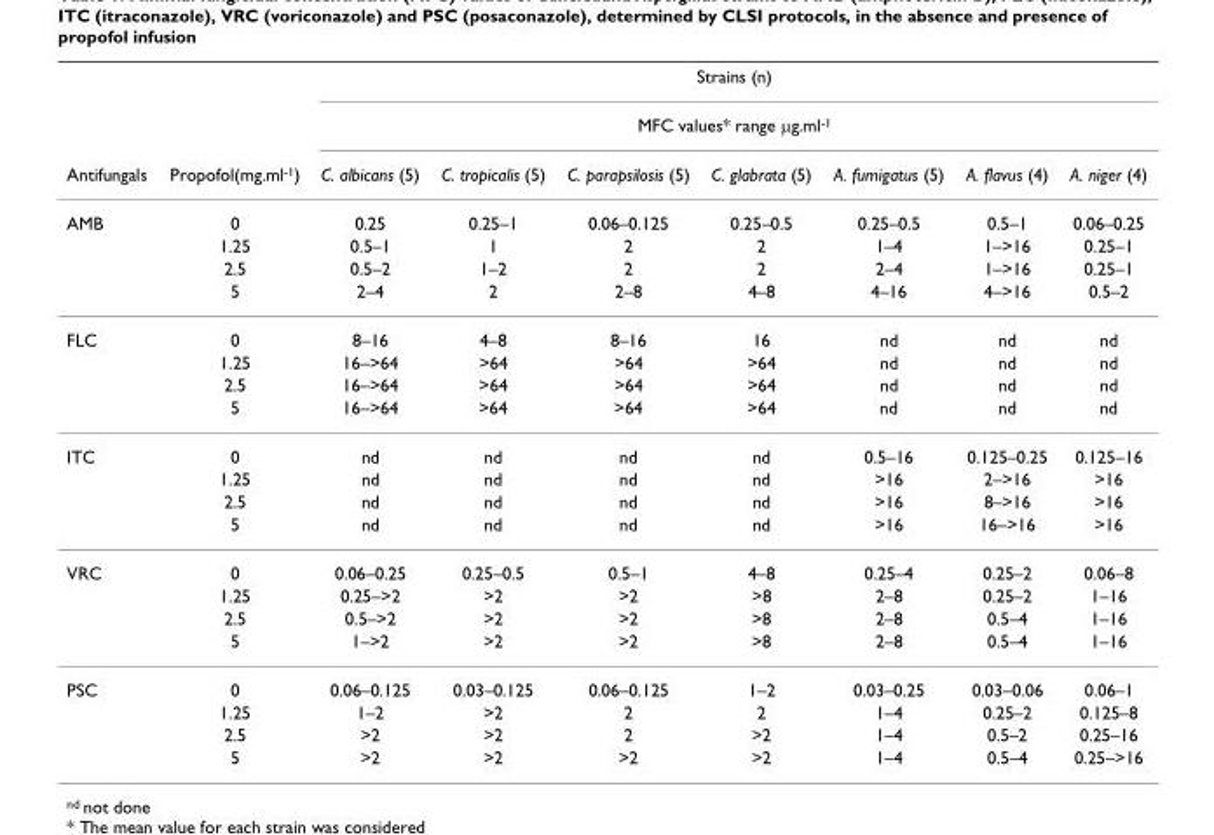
<table><thead><tr><td rowspan="3">Antifungals</td><td rowspan="3">Propofol(mg.ml<sup>-1</sup>)</td><td rowspan="2" colspan="7">Strains (n) MFC values* range μg.ml<sup>-1</sup></td></tr><tr></tr><tr><td>C. albicans (5)</td><td>C. tropicalis (5)</td><td>C. parapsilosis (5)</td><td>C. glabrata (5)</td><td>A. fumigatus (5)</td><td>A. flavus (4)</td><td>A. niger (4)</td></tr></thead><tbody><tr><td rowspan="4">AMB</td><td>0</td><td>0.25</td><td>0.25–1</td><td>0.06–0.125</td><td>0.25–0.5</td><td>0.25–0.5</td><td>0.5–1</td><td>0.06–0.25</td></tr><tr><td>1.25</td><td>0.5–1</td><td>1</td><td>2</td><td>2</td><td>1–4</td><td>1–&gt;16</td><td>0.25–1</td></tr><tr><td>2.5</td><td>0.5–2</td><td>1–2</td><td>2</td><td>2</td><td>2–4</td><td>1–&gt;16</td><td>0.25–1</td></tr><tr><td>5</td><td>2–4</td><td>2</td><td>2–8</td><td>4–8</td><td>4–16</td><td>4–&gt;16</td><td>0.5–2</td></tr><tr><td rowspan="4">FLC</td><td>0</td><td>8–16</td><td>4–8</td><td>8–16</td><td>16</td><td>nd</td><td>nd</td><td>nd</td></tr><tr><td>1.25</td><td>16–&gt;64</td><td>&gt;64</td><td>&gt;64</td><td>&gt;64</td><td>nd</td><td>nd</td><td>nd</td></tr><tr><td>2.5</td><td>16–&gt;64</td><td>&gt;64</td><td>&gt;64</td><td>&gt;64</td><td>nd</td><td>nd</td><td>nd</td></tr><tr><td>5</td><td>16–&gt;64</td><td>&gt;64</td><td>&gt;64</td><td>&gt;64</td><td>nd</td><td>nd</td><td>nd</td></tr><tr><td rowspan="4">ITC</td><td>0</td><td>nd</td><td>nd</td><td>nd</td><td>nd</td><td>0.5–16</td><td>0.125–0.25</td><td>0.125–16</td></tr><tr><td>1.25</td><td>nd</td><td>nd</td><td>nd</td><td>nd</td><td>&gt;16</td><td>2–&gt;16</td><td>&gt;16</td></tr><tr><td>2.5</td><td>nd</td><td>nd</td><td>nd</td><td>nd</td><td>&gt;16</td><td>8–&gt;16</td><td>&gt;16</td></tr><tr><td>5</td><td>nd</td><td>nd</td><td>nd</td><td>nd</td><td>&gt;16</td><td>16–&gt;16</td><td>&gt;16</td></tr><tr><td rowspan="4">VRC</td><td>0</td><td>0.06–0.25</td><td>0.25–0.5</td><td>0.5–1</td><td>4–8</td><td>0.25–4</td><td>0.25–2</td><td>0.06–8</td></tr><tr><td>1.25</td><td>0.25–&gt;2</td><td>&gt;2</td><td>&gt;2</td><td>&gt;8</td><td>2–8</td><td>0.25–2</td><td>1–16</td></tr><tr><td>2.5</td><td>0.5–&gt;2</td><td>&gt;2</td><td>&gt;2</td><td>&gt;8</td><td>2–8</td><td>0.5–4</td><td>1–16</td></tr><tr><td>5</td><td>1–&gt;2</td><td>&gt;2</td><td>&gt;2</td><td>&gt;8</td><td>2–8</td><td>0.5–4</td><td>1–16</td></tr><tr><td rowspan="4">PSC</td><td>0</td><td>0.06–0.125</td><td>0.03–0.125</td><td>0.06–0.125</td><td>1–2</td><td>0.03–0.25</td><td>0.03–0.06</td><td>0.06–1</td></tr><tr><td>1.25</td><td>1–2</td><td>&gt;2</td><td>2</td><td>2</td><td>1–4</td><td>0.25–2</td><td>0.125–8</td></tr><tr><td>2.5</td><td>&gt;2</td><td>&gt;2</td><td>2</td><td>&gt;2</td><td>1–4</td><td>0.5–2</td><td>0.25–16</td></tr><tr><td>5</td><td>&gt;2</td><td>&gt;2</td><td>&gt;2</td><td>&gt;2</td><td>1–4</td><td>0.5–4</td><td>0.25–&gt;16</td></tr></tbody></table>